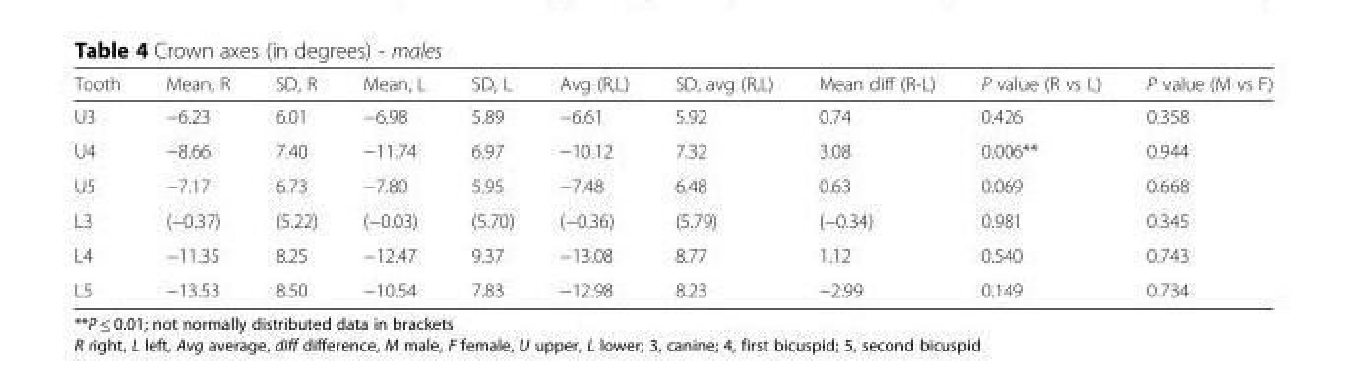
<table><thead><tr><td>Tooth</td><td>Mean, R</td><td>SD, R</td><td>Mean, L</td><td>SD, L</td><td>Avg (R,L)</td><td>SD, avg (R,L)</td><td>Mean diff (R-L)</td><td>P value (R vs L)</td><td>P value (M vs F)</td></tr></thead><tbody><tr><td>U3</td><td>−6.23</td><td>6.01</td><td>−6.98</td><td>5.89</td><td>−6.61</td><td>5.92</td><td>0.74</td><td>0.426</td><td>0.358</td></tr><tr><td>U4</td><td>−8.66</td><td>7.40</td><td>−11.74</td><td>6.97</td><td>−10.12</td><td>7.32</td><td>3.08</td><td>0.006**</td><td>0.944</td></tr><tr><td>U5</td><td>−7.17</td><td>6.73</td><td>−7.80</td><td>5.95</td><td>−7.48</td><td>6.48</td><td>0.63</td><td>0.069</td><td>0.668</td></tr><tr><td>L3</td><td>(−0.37)</td><td>(5.22)</td><td>(−0.03)</td><td>(5.70)</td><td>(−0.36)</td><td>(5.79)</td><td>(−0.34)</td><td>0.981</td><td>0.345</td></tr><tr><td>L4</td><td>−11.35</td><td>8.25</td><td>−12.47</td><td>9.37</td><td>−13.08</td><td>8.77</td><td>1.12</td><td>0.540</td><td>0.743</td></tr><tr><td>L5</td><td>−13.53</td><td>8.50</td><td>−10.54</td><td>7.83</td><td>−12.98</td><td>8.23</td><td>−2.99</td><td>0.149</td><td>0.734</td></tr></tbody></table>